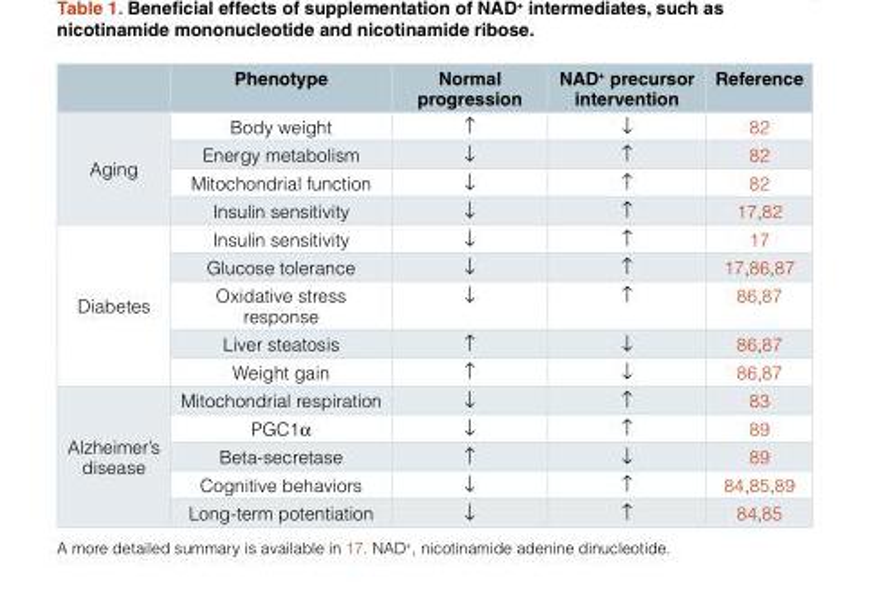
<table><thead><tr><td></td><td>Phenotype</td><td>Normal progression</td><td>NAD<sup>+</sup> precursor intervention</td><td>Reference</td></tr></thead><tbody><tr><td rowspan="4">Aging</td><td>Body weight</td><td>↑</td><td>↓</td><td>82</td></tr><tr><td>Energy metabolism</td><td>↓</td><td>↑</td><td>82</td></tr><tr><td>Mitochondrial function</td><td>↓</td><td>↑</td><td>82</td></tr><tr><td>Insulin sensitivity</td><td>↓</td><td>↑</td><td>17,82</td></tr><tr><td rowspan="5">Diabetes</td><td>Insulin sensitivity</td><td>↓</td><td>↑</td><td>17</td></tr><tr><td>Glucose tolerance</td><td>↓</td><td>↑</td><td>17,86,87</td></tr><tr><td>Oxidative stress response</td><td>↓</td><td>↑</td><td>86,87</td></tr><tr><td>Liver steatosis</td><td>↑</td><td>↓</td><td>86,87</td></tr><tr><td>Weight gain</td><td>↑</td><td>↓</td><td>86,87</td></tr><tr><td rowspan="5">Alzheimer’s disease</td><td>Mitochondrial respiration</td><td>↓</td><td>↑</td><td>83</td></tr><tr><td>PGC1α</td><td>↓</td><td>↑</td><td>89</td></tr><tr><td>Beta-secretase</td><td>↑</td><td>↓</td><td>89</td></tr><tr><td>Cognitive behaviors</td><td>↓</td><td>↑</td><td>84,85,89</td></tr><tr><td>Long-term potentiation</td><td>↓</td><td>↑</td><td>84,85</td></tr></tbody></table>